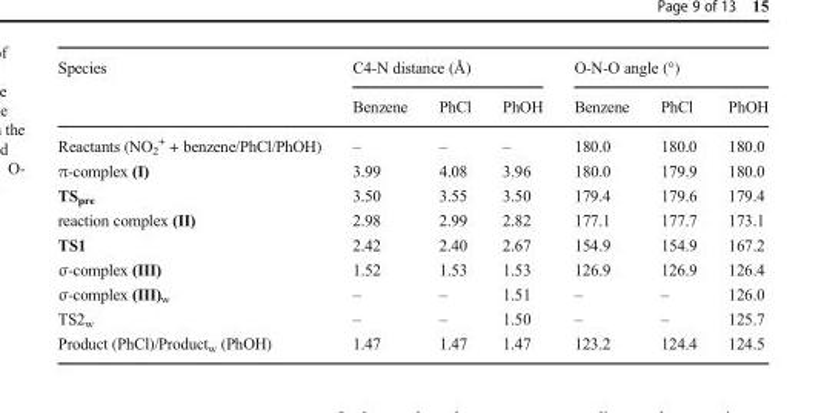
<table><thead><tr><td rowspan="2">Species</td><td colspan="3">C4-N distance (Å)</td><td colspan="3">O-N-O angle (°)</td></tr><tr><td>Benzene</td><td>PhCl</td><td>PhOH</td><td>Benzene</td><td>PhCl</td><td>PhOH</td></tr></thead><tbody><tr><td>Reactants (NO<sub>2</sub> <sup>+</sup> + benzene/PhCl/PhOH)</td><td>–</td><td>–</td><td>–</td><td>180.0</td><td>180.0</td><td>180.0</td></tr><tr><td>π-complex (I)</td><td>3.99</td><td>4.08</td><td>3.96</td><td>180.0</td><td>179.9</td><td>180.0</td></tr><tr><td>TS<sub>pre</sub></td><td>3.50</td><td>3.55</td><td>3.50</td><td>179.4</td><td>179.6</td><td>179.4</td></tr><tr><td>reaction complex (II)</td><td>2.98</td><td>2.99</td><td>2.82</td><td>177.1</td><td>177.7</td><td>173.1</td></tr><tr><td>TS1</td><td>2.42</td><td>2.40</td><td>2.67</td><td>154.9</td><td>154.9</td><td>167.2</td></tr><tr><td>σ-complex (III)</td><td>1.52</td><td>1.53</td><td>1.53</td><td>126.9</td><td>126.9</td><td>126.4</td></tr><tr><td>σ-complex (III)<sub>w</sub></td><td>–</td><td>–</td><td>1.51</td><td>–</td><td>–</td><td>126.0</td></tr><tr><td>TS2<sub>w</sub></td><td>–</td><td>–</td><td>1.50</td><td>–</td><td>–</td><td>125.7</td></tr><tr><td>Product (PhCl)/Product<sub>w</sub> (PhOH)</td><td>1.47</td><td>1.47</td><td>1.47</td><td>123.2</td><td>124.4</td><td>124.5</td></tr></tbody></table>